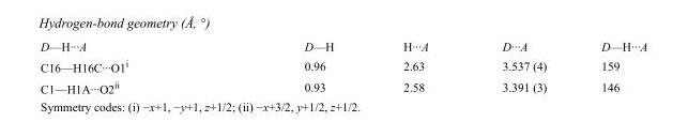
<table><tbody><tr><td>D—H···A</td><td>D—H</td><td>H···A</td><td>D···A</td><td>D—H···A</td></tr><tr><td>C16—H16C···O1<sup>i</sup></td><td>0.96</td><td>2.63</td><td>3.537 (4)</td><td>159</td></tr><tr><td>C1—H1A···O2<sup>ii</sup></td><td>0.93</td><td>2.58</td><td>3.391 (3)</td><td>146</td></tr></tbody></table>